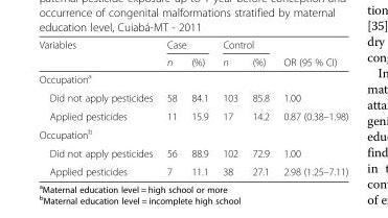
<table><thead><tr><td rowspan="2">Variables</td><td colspan="2">Case</td><td colspan="2">Control</td><td rowspan="2">OR (95 % CI)</td></tr><tr><td>n</td><td>(%)</td><td>n</td><td>(%)</td></tr></thead><tbody><tr><td colspan="6">Occupation<sup>a</sup></td></tr><tr><td>Did not apply pesticides</td><td>58</td><td>84.1</td><td>103</td><td>85.8</td><td>1.00</td></tr><tr><td>Applied pesticides</td><td>11</td><td>15.9</td><td>17</td><td>14.2</td><td>0.87 (0.38–1.98)</td></tr><tr><td colspan="6">Occupation<sup>b</sup></td></tr><tr><td>Did not apply pesticides</td><td>56</td><td>88.9</td><td>102</td><td>72.9</td><td>1.00</td></tr><tr><td>Applied pesticides</td><td>7</td><td>11.1</td><td>38</td><td>27.1</td><td>2.98 (1.25–7.11)</td></tr></tbody></table>